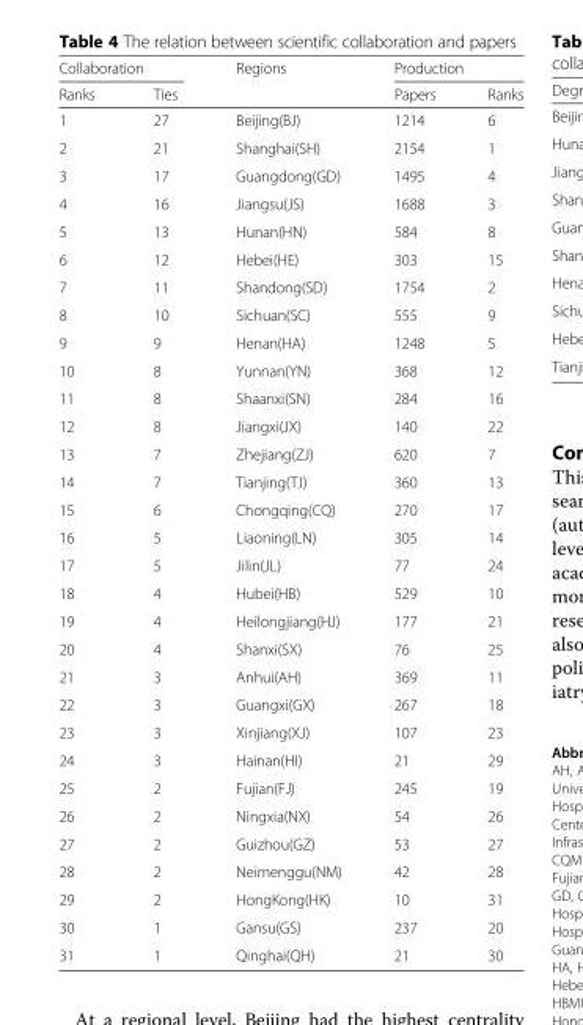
<table><thead><tr><td colspan="2">Collaboration</td><td rowspan="2">Regions</td><td colspan="2">Production</td></tr><tr><td>Ranks</td><td>Ties</td><td>Papers</td><td>Ranks</td></tr></thead><tbody><tr><td>1</td><td>27</td><td>Beijing(BJ)</td><td>1214</td><td>6</td></tr><tr><td>2</td><td>21</td><td>Shanghai(SH)</td><td>2154</td><td>1</td></tr><tr><td>3</td><td>17</td><td>Guangdong(GD)</td><td>1495</td><td>4</td></tr><tr><td>4</td><td>16</td><td>Jiangsu(JS)</td><td>1688</td><td>3</td></tr><tr><td>5</td><td>13</td><td>Hunan(HN)</td><td>584</td><td>8</td></tr><tr><td>6</td><td>12</td><td>Hebei(HE)</td><td>303</td><td>15</td></tr><tr><td>7</td><td>11</td><td>Shandong(SD)</td><td>1754</td><td>2</td></tr><tr><td>8</td><td>10</td><td>Sichuan(SC)</td><td>555</td><td>9</td></tr><tr><td>9</td><td>9</td><td>Henan(HA)</td><td>1248</td><td>5</td></tr><tr><td>10</td><td>8</td><td>Yunnan(YN)</td><td>368</td><td>12</td></tr><tr><td>11</td><td>8</td><td>Shaanxi(SN)</td><td>284</td><td>16</td></tr><tr><td>12</td><td>8</td><td>Jiangxi(JX)</td><td>140</td><td>22</td></tr><tr><td>13</td><td>7</td><td>Zhejiang(ZJ)</td><td>620</td><td>7</td></tr><tr><td>14</td><td>7</td><td>Tianjing(TJ)</td><td>360</td><td>13</td></tr><tr><td>15</td><td>6</td><td>Chongqing(CQ)</td><td>270</td><td>17</td></tr><tr><td>16</td><td>5</td><td>Liaoning(LN)</td><td>305</td><td>14</td></tr><tr><td>17</td><td>5</td><td>Jilin(JL)</td><td>77</td><td>24</td></tr><tr><td>18</td><td>4</td><td>Hubei(HB)</td><td>529</td><td>10</td></tr><tr><td>19</td><td>4</td><td>Heilongjiang(HJ)</td><td>177</td><td>21</td></tr><tr><td>20</td><td>4</td><td>Shanxi(SX)</td><td>76</td><td>25</td></tr><tr><td>21</td><td>3</td><td>Anhui(AH)</td><td>369</td><td>11</td></tr><tr><td>22</td><td>3</td><td>Guangxi(GX)</td><td>267</td><td>18</td></tr><tr><td>23</td><td>3</td><td>Xinjiang(XJ)</td><td>107</td><td>23</td></tr><tr><td>24</td><td>3</td><td>Hainan(HI)</td><td>21</td><td>29</td></tr><tr><td>25</td><td>2</td><td>Fujian(FJ)</td><td>245</td><td>19</td></tr><tr><td>26</td><td>2</td><td>Ningxia(NX)</td><td>54</td><td>26</td></tr><tr><td>27</td><td>2</td><td>Guizhou(GZ)</td><td>53</td><td>27</td></tr><tr><td>28</td><td>2</td><td>Neimenggu(NM)</td><td>42</td><td>28</td></tr><tr><td>29</td><td>2</td><td>HongKong(HK)</td><td>10</td><td>31</td></tr><tr><td>30</td><td>1</td><td>Gansu(GS)</td><td>237</td><td>20</td></tr><tr><td>31</td><td>1</td><td>Qinghai(QH)</td><td>21</td><td>30</td></tr></tbody></table>